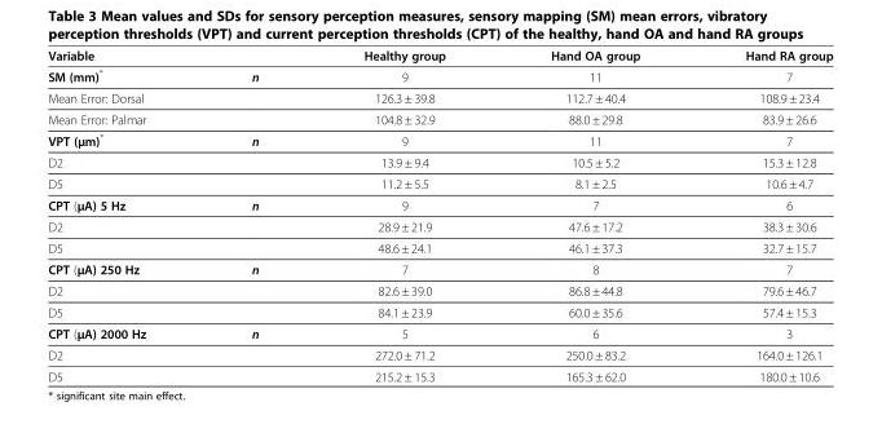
<table><thead><tr><td>Variable</td><td></td><td>Healthy group</td><td>Hand OA group</td><td>Hand RA group</td></tr></thead><tbody><tr><td>SM (mm)*</td><td>n</td><td>9</td><td>11</td><td>7</td></tr><tr><td>Mean Error: Dorsal</td><td></td><td>126.3 ± 39.8</td><td>112.7 ± 40.4</td><td>108.9 ± 23.4</td></tr><tr><td>Mean Error: Palmar</td><td></td><td>104.8 ± 32.9</td><td>88.0 ± 29.8</td><td>83.9 ± 26.6</td></tr><tr><td>VPT (μm)*</td><td>n</td><td>9</td><td>11</td><td>7</td></tr><tr><td>D2</td><td></td><td>13.9 ± 9.4</td><td>10.5 ± 5.2</td><td>15.3 ± 12.8</td></tr><tr><td>D5</td><td></td><td>11.2 ± 5.5</td><td>8.1 ± 2.5</td><td>10.6 ± 4.7</td></tr><tr><td>CPT (μA) 5 Hz</td><td>n</td><td>9</td><td>7</td><td>6</td></tr><tr><td>D2</td><td></td><td>28.9 ± 21.9</td><td>47.6 ± 17.2</td><td>38.3 ± 30.6</td></tr><tr><td>D5</td><td></td><td>48.6 ± 24.1</td><td>46.1 ± 37.3</td><td>32.7 ± 15.7</td></tr><tr><td>CPT (μA) 250 Hz</td><td>n</td><td>7</td><td>8</td><td>7</td></tr><tr><td>D2</td><td></td><td>82.6 ± 39.0</td><td>86.8 ± 44.8</td><td>79.6 ± 46.7</td></tr><tr><td>D5</td><td></td><td>84.1 ± 23.9</td><td>60.0 ± 35.6</td><td>57.4 ± 15.3</td></tr><tr><td>CPT (μA) 2000 Hz</td><td>n</td><td>5</td><td>6</td><td>3</td></tr><tr><td>D2</td><td></td><td>272.0 ± 71.2</td><td>250.0 ± 83.2</td><td>164.0 ± 126.1</td></tr><tr><td>D5</td><td></td><td>215.2 ± 15.3</td><td>165.3 ± 62.0</td><td>180.0 ± 10.6</td></tr></tbody></table>